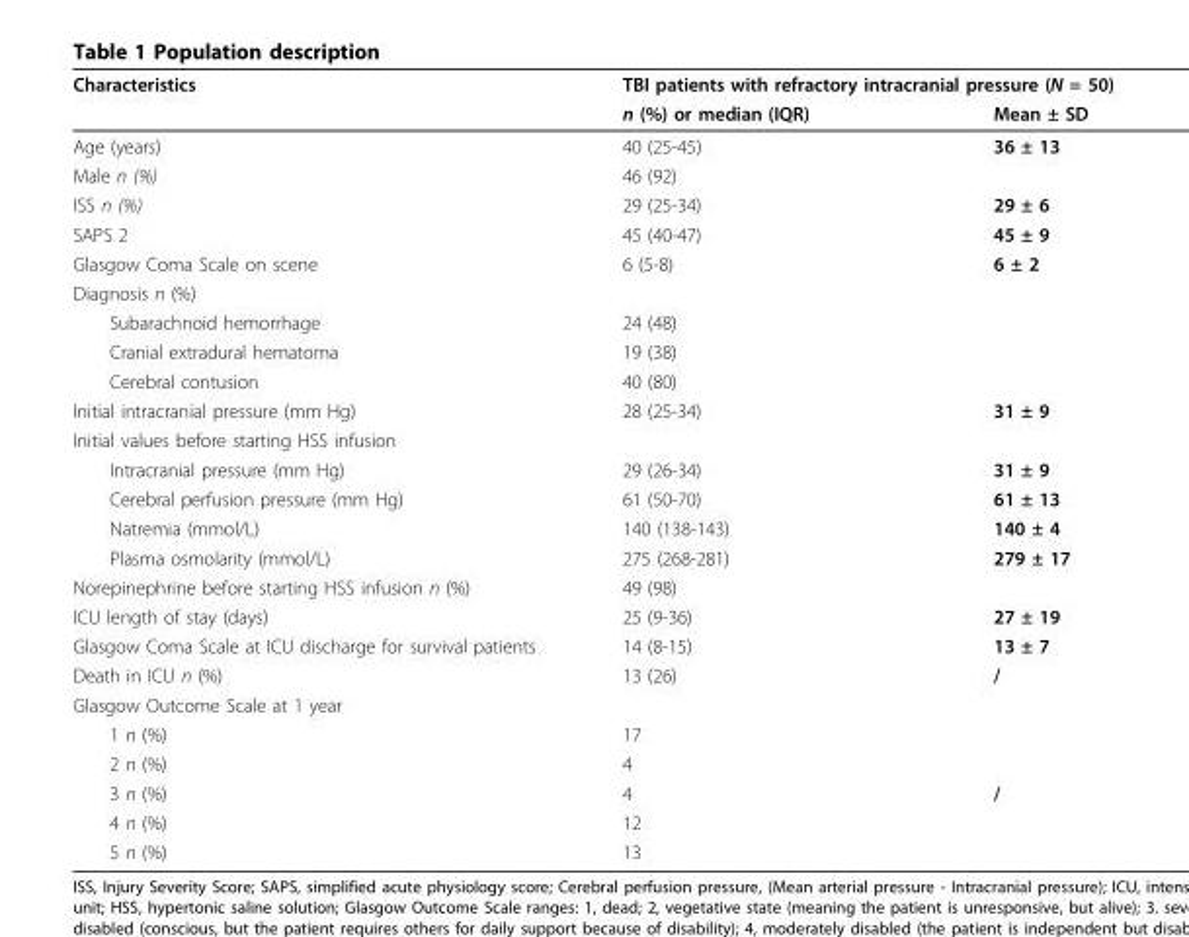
<table><thead><tr><td rowspan="2">Characteristics</td><td colspan="2">TBI patients with refractory intracranial pressure (N = 50)</td></tr><tr><td>n (%) or median (IQR)</td><td>Mean ± SD</td></tr></thead><tbody><tr><td>Age (years)</td><td>40 (25-45)</td><td>36 ± 13</td></tr><tr><td>Male n (%)</td><td>46 (92)</td><td></td></tr><tr><td>ISS n (%)</td><td>29 (25-34)</td><td>29 ± 6</td></tr><tr><td>SAPS 2</td><td>45 (40-47)</td><td>45 ± 9</td></tr><tr><td>Glasgow Coma Scale on scene</td><td>6 (5-8)</td><td>6 ± 2</td></tr><tr><td colspan="3">Diagnosis n (%)</td></tr><tr><td>Subarachnoid hemorrhage</td><td>24 (48)</td><td></td></tr><tr><td>Cranial extradural hematoma</td><td>19 (38)</td><td></td></tr><tr><td>Cerebral contusion</td><td>40 (80)</td><td></td></tr><tr><td>Initial intracranial pressure (mm Hg)</td><td>28 (25-34)</td><td>31 ± 9</td></tr><tr><td colspan="3">Initial values before starting HSS infusion</td></tr><tr><td>Intracranial pressure (mm Hg)</td><td>29 (26-34)</td><td>31 ± 9</td></tr><tr><td>Cerebral perfusion pressure (mm Hg)</td><td>61 (50-70)</td><td>61 ± 13</td></tr><tr><td>Natremia (mmol/L)</td><td>140 (138-143)</td><td>140 ± 4</td></tr><tr><td>Plasma osmolarity (mmol/L)</td><td>275 (268-281)</td><td>279 ± 17</td></tr><tr><td>Norepinephrine before starting HSS infusion n (%)</td><td>49 (98)</td><td></td></tr><tr><td>ICU length of stay (days)</td><td>25 (9-36)</td><td>27 ± 19</td></tr><tr><td>Glasgow Coma Scale at ICU discharge for survival patients</td><td>14 (8-15)</td><td>13 ± 7</td></tr><tr><td>Death in ICU n (%)</td><td>13 (26)</td><td>/</td></tr><tr><td colspan="3">Glasgow Outcome Scale at 1 year</td></tr><tr><td>1 n (%)</td><td>17</td><td></td></tr><tr><td>2 n (%)</td><td>4</td><td></td></tr><tr><td>3 n (%)</td><td>4</td><td>/</td></tr><tr><td>4 n (%)</td><td>12</td><td></td></tr><tr><td>5 n (%)</td><td>13</td><td></td></tr></tbody></table>